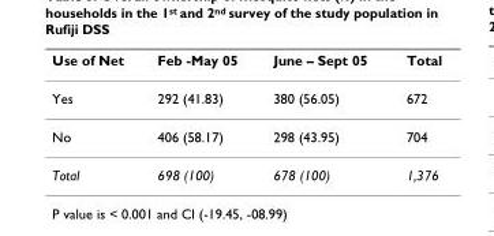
<table><thead><tr><td>Use of Net</td><td>Feb -May 05</td><td>June – Sept 05</td><td>Total</td></tr></thead><tbody><tr><td>Yes</td><td>292 (41.83)</td><td>380 (56.05)</td><td>672</td></tr><tr><td>No</td><td>406 (58.17)</td><td>298 (43.95)</td><td>704</td></tr><tr><td>Total</td><td>698 (100)</td><td>678 (100)</td><td>1,376</td></tr></tbody></table>